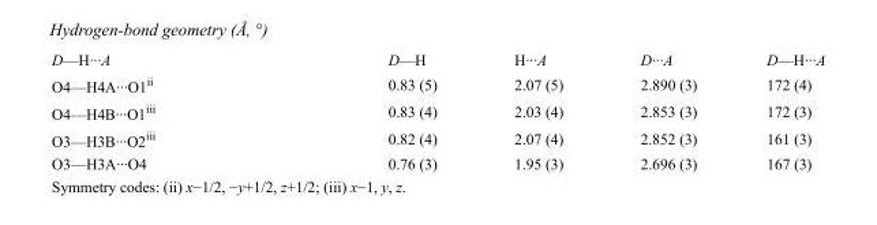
<table><tbody><tr><td>D—H···A</td><td>D—H</td><td>H···A</td><td>D···A</td><td>D—H···A</td></tr><tr><td>O4—H4A···O1<sup>ii</sup></td><td>0.83 (5)</td><td>2.07 (5)</td><td>2.890 (3)</td><td>172 (4)</td></tr><tr><td>O4—H4B···O1<sup>iii</sup></td><td>0.83 (4)</td><td>2.03 (4)</td><td>2.853 (3)</td><td>172 (3)</td></tr><tr><td>O3—H3B···O2<sup>iii</sup></td><td>0.82 (4)</td><td>2.07 (4)</td><td>2.852 (3)</td><td>161 (3)</td></tr><tr><td>O3—H3A···O4</td><td>0.76 (3)</td><td>1.95 (3)</td><td>2.696 (3)</td><td>167 (3)</td></tr></tbody></table>